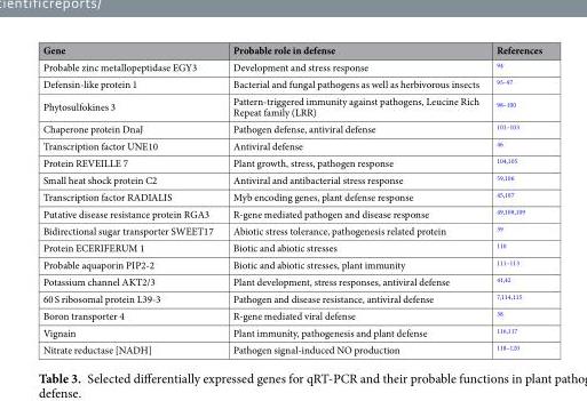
<table><thead><tr><td>Gene</td><td>Probable role in defense</td><td>References</td></tr></thead><tbody><tr><td>Probable zinc metallopeptidase EGY3</td><td>Development and stress response</td><td><sup>94</sup></td></tr><tr><td>Defensin-like protein 1</td><td>Bacterial and fungal pathogens as well as herbivorous insects</td><td><sup>95–97</sup></td></tr><tr><td>Phytosulfokines 3</td><td>Pattern-triggered immunity against pathogens, Leucine Rich Repeat family (LRR)</td><td><sup>98–100</sup></td></tr><tr><td>Chaperone protein DnaJ</td><td>Pathogen defense, antiviral defense</td><td><sup>101–103</sup></td></tr><tr><td>Transcription factor UNE10</td><td>Antiviral defense</td><td><sup>46</sup></td></tr><tr><td>Protein REVEILLE 7</td><td>Plant growth, stress, pathogen response</td><td><sup>104,105</sup></td></tr><tr><td>Small heat shock protein C2</td><td>Antiviral and antibacterial stress response</td><td><sup>59,106</sup></td></tr><tr><td>Transcription factor RADIALIS</td><td>Myb encoding genes, plant defense response</td><td><sup>45,107</sup></td></tr><tr><td>Putative disease resistance protein RGA3</td><td>R-gene mediated pathogen and disease response</td><td><sup>49,108,109</sup></td></tr><tr><td>Bidirectional sugar transporter SWEET17</td><td>Abiotic stress tolerance, pathogenesis related protein</td><td><sup>39</sup></td></tr><tr><td>Protein ECERIFERUM 1</td><td>Biotic and abiotic stresses</td><td><sup>110</sup></td></tr><tr><td>Probable aquaporin PIP2-2</td><td>Biotic and abiotic stresses, plant immunity</td><td><sup>111–113</sup></td></tr><tr><td>Potassium channel AKT2/3</td><td>Plant development, stress responses, antiviral defense</td><td><sup>41,42</sup></td></tr><tr><td>60 S ribosomal protein L39-3</td><td>Pathogen and disease resistance, antiviral defense</td><td><sup>7,114,115</sup></td></tr><tr><td>Boron transporter 4</td><td>R-gene mediated viral defense</td><td><sup>38</sup></td></tr><tr><td>Vignain</td><td>Plant immunity, pathogenesis and plant defense</td><td><sup>116,117</sup></td></tr><tr><td>Nitrate reductase [NADH]</td><td>Pathogen signal-induced NO production</td><td><sup>118–120</sup></td></tr></tbody></table>